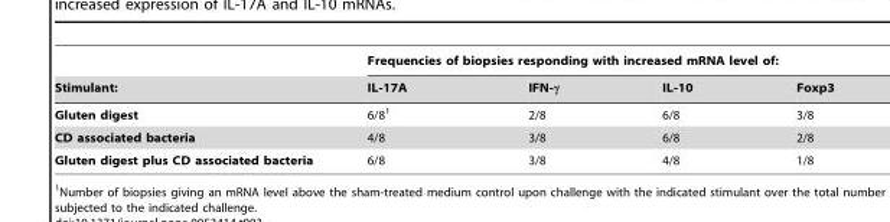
<table><thead><tr><td rowspan="2">Stimulant:</td><td colspan="4">Frequencies of biopsies responding with increased mRNA level of:</td></tr><tr><td>IL-17A</td><td>IFN-γ</td><td>IL-10</td><td>Foxp3</td></tr></thead><tbody><tr><td>Gluten digest</td><td>6/8<sup>1</sup></td><td>2/8</td><td>6/8</td><td>3/8</td></tr><tr><td>CD associated bacteria</td><td>4/8</td><td>3/8</td><td>6/8</td><td>2/8</td></tr><tr><td>Gluten digest plus CD associated bacteria</td><td>6/8</td><td>3/8</td><td>4/8</td><td>1/8</td></tr></tbody></table>